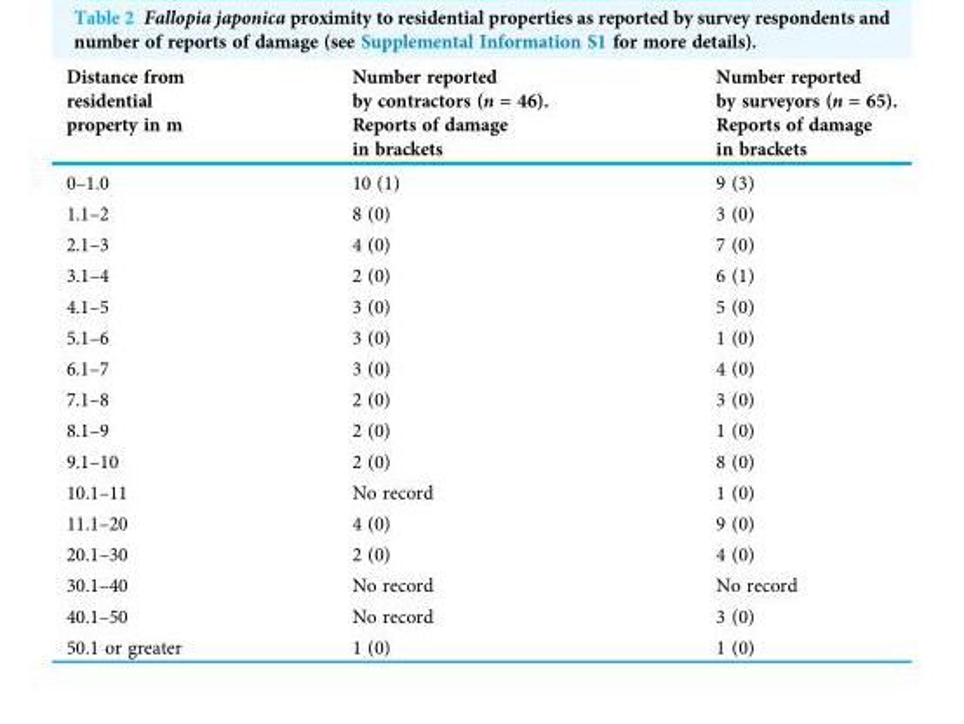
<table><thead><tr><td>Distance from residential property in m</td><td>Number reported by contractors (n = 46). Reports of damage in brackets</td><td>Number reported by surveyors (n = 65). Reports of damage in brackets</td></tr></thead><tbody><tr><td>0–1.0</td><td>10 (1)</td><td>9 (3)</td></tr><tr><td>1.1–2</td><td>8 (0)</td><td>3 (0)</td></tr><tr><td>2.1–3</td><td>4 (0)</td><td>7 (0)</td></tr><tr><td>3.1–4</td><td>2 (0)</td><td>6 (1)</td></tr><tr><td>4.1–5</td><td>3 (0)</td><td>5 (0)</td></tr><tr><td>5.1–6</td><td>3 (0)</td><td>1 (0)</td></tr><tr><td>6.1–7</td><td>3 (0)</td><td>4 (0)</td></tr><tr><td>7.1–8</td><td>2 (0)</td><td>3 (0)</td></tr><tr><td>8.1–9</td><td>2 (0)</td><td>1 (0)</td></tr><tr><td>9.1–10</td><td>2 (0)</td><td>8 (0)</td></tr><tr><td>10.1–11</td><td>No record</td><td>1 (0)</td></tr><tr><td>11.1–20</td><td>4 (0)</td><td>9 (0)</td></tr><tr><td>20.1–30</td><td>2 (0)</td><td>4 (0)</td></tr><tr><td>30.1–40</td><td>No record</td><td>No record</td></tr><tr><td>40.1–50</td><td>No record</td><td>3 (0)</td></tr><tr><td>50.1 or greater</td><td>1 (0)</td><td>1 (0)</td></tr></tbody></table>